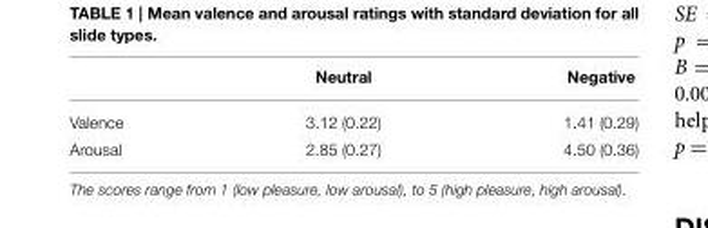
<table><thead><tr><td></td><td>Neutral</td><td>Negative</td></tr></thead><tbody><tr><td>Valence</td><td>3.12 (0.22)</td><td>1.41 (0.29)</td></tr><tr><td>Arousal</td><td>2.85 (0.27)</td><td>4.50 (0.36)</td></tr></tbody></table>